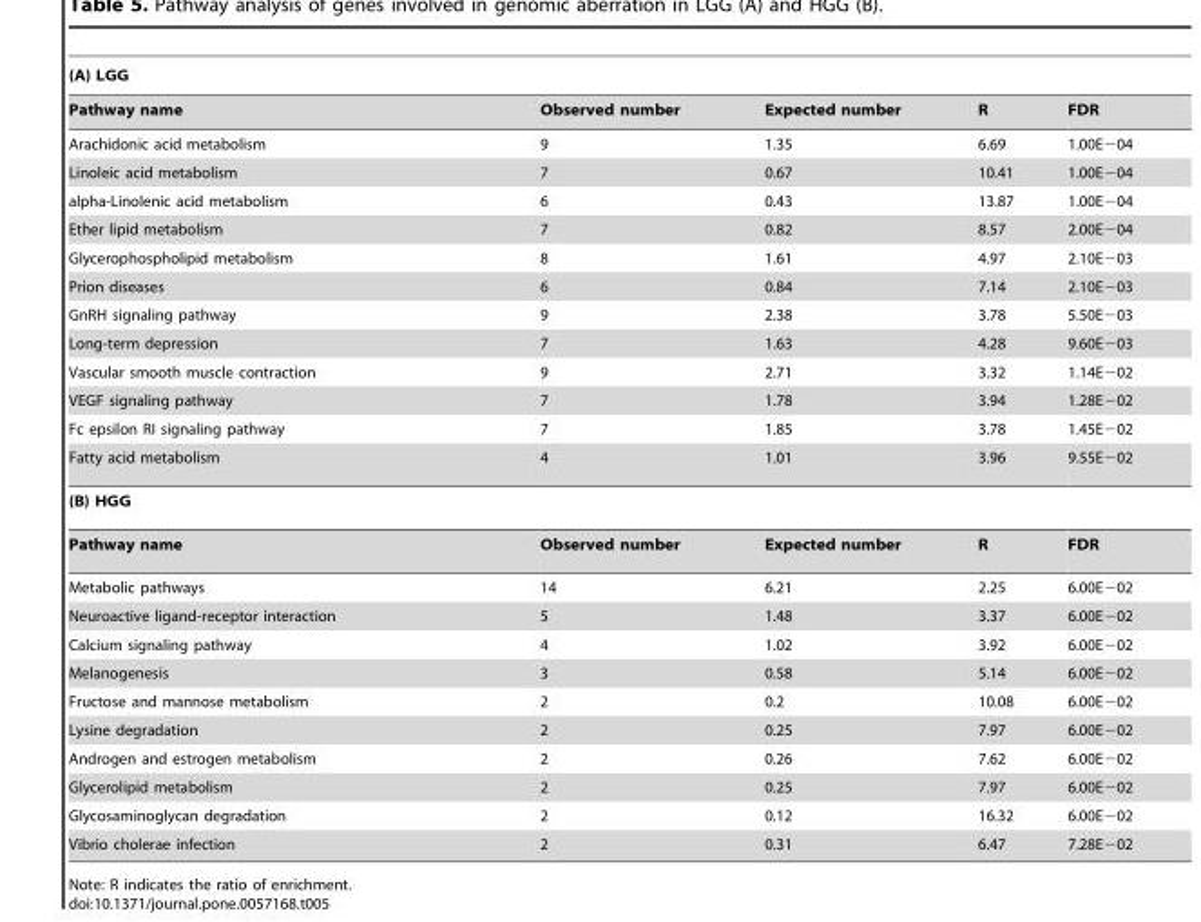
<table><thead><tr><td colspan="5">(A) LGG</td></tr><tr><td>Pathway name</td><td>Observed number</td><td>Expected number</td><td>R</td><td>FDR</td></tr></thead><tbody><tr><td>Arachidonic acid metabolism</td><td>9</td><td>1.35</td><td>6.69</td><td>1.00E−04</td></tr><tr><td>Linoleic acid metabolism</td><td>7</td><td>0.67</td><td>10.41</td><td>1.00E−04</td></tr><tr><td>alpha-Linolenic acid metabolism</td><td>6</td><td>0.43</td><td>13.87</td><td>1.00E−04</td></tr><tr><td>Ether lipid metabolism</td><td>7</td><td>0.82</td><td>8.57</td><td>2.00E−04</td></tr><tr><td>Glycerophospholipid metabolism</td><td>8</td><td>1.61</td><td>4.97</td><td>2.10E−03</td></tr><tr><td>Prion diseases</td><td>6</td><td>0.84</td><td>7.14</td><td>2.10E−03</td></tr><tr><td>GnRH signaling pathway</td><td>9</td><td>2.38</td><td>3.78</td><td>5.50E−03</td></tr><tr><td>Long-term depression</td><td>7</td><td>1.63</td><td>4.28</td><td>9.60E−03</td></tr><tr><td>Vascular smooth muscle contraction</td><td>9</td><td>2.71</td><td>3.32</td><td>1.14E−02</td></tr><tr><td>VEGF signaling pathway</td><td>7</td><td>1.78</td><td>3.94</td><td>1.28E−02</td></tr><tr><td>Fc epsilon RI signaling pathway</td><td>7</td><td>1.85</td><td>3.78</td><td>1.45E−02</td></tr><tr><td>Fatty acid metabolism</td><td>4</td><td>1.01</td><td>3.96</td><td>9.55E−02</td></tr><tr><td colspan="5">(B) HGG</td></tr><tr><td>Pathway name</td><td>Observed number</td><td>Expected number</td><td>R</td><td>FDR</td></tr><tr><td>Metabolic pathways</td><td>14</td><td>6.21</td><td>2.25</td><td>6.00E−02</td></tr><tr><td>Neuroactive ligand-receptor interaction</td><td>5</td><td>1.48</td><td>3.37</td><td>6.00E−02</td></tr><tr><td>Calcium signaling pathway</td><td>4</td><td>1.02</td><td>3.92</td><td>6.00E−02</td></tr><tr><td>Melanogenesis</td><td>3</td><td>0.58</td><td>5.14</td><td>6.00E−02</td></tr><tr><td>Fructose and mannose metabolism</td><td>2</td><td>0.2</td><td>10.08</td><td>6.00E−02</td></tr><tr><td>Lysine degradation</td><td>2</td><td>0.25</td><td>7.97</td><td>6.00E−02</td></tr><tr><td>Androgen and estrogen metabolism</td><td>2</td><td>0.26</td><td>7.62</td><td>6.00E−02</td></tr><tr><td>Glycerolipid metabolism</td><td>2</td><td>0.25</td><td>7.97</td><td>6.00E−02</td></tr><tr><td>Glycosaminoglycan degradation</td><td>2</td><td>0.12</td><td>16.32</td><td>6.00E−02</td></tr><tr><td>Vibrio cholerae infection</td><td>2</td><td>0.31</td><td>6.47</td><td>7.28E−02</td></tr></tbody></table>